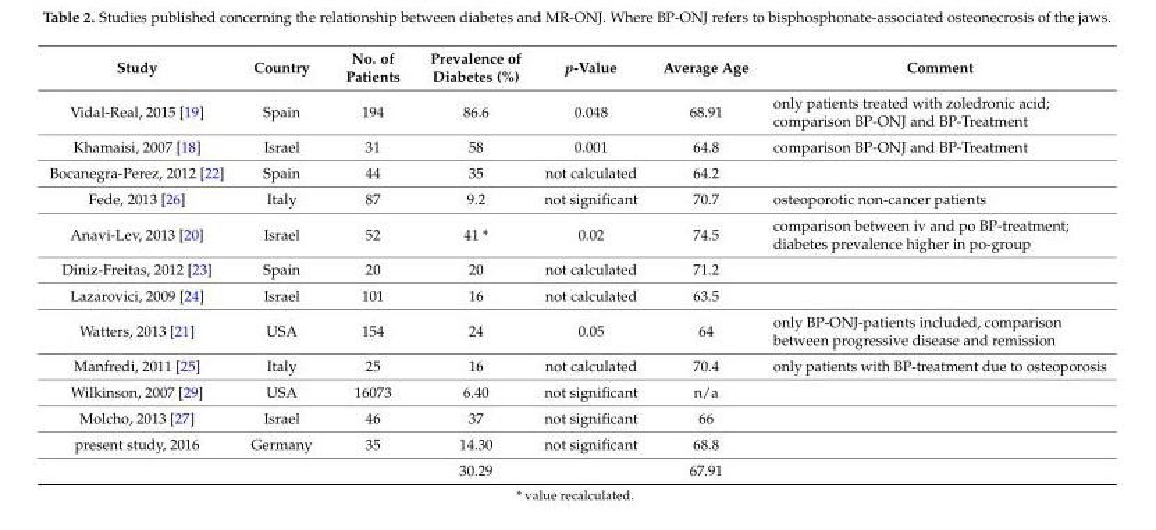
<table><thead><tr><td>Study</td><td>Country</td><td>No. of Patients</td><td>Prevalence of Diabetes (%)</td><td>p-Value</td><td>Average Age</td><td>Comment</td></tr></thead><tbody><tr><td>Vidal-Real, 2015 [19]</td><td>Spain</td><td>194</td><td>86.6</td><td>0.048</td><td>68.91</td><td>only patients treated with zoledronic acid; comparison BP-ONJ and BP-Treatment</td></tr><tr><td>Khamaisi, 2007 [18]</td><td>Israel</td><td>31</td><td>58</td><td>0.001</td><td>64.8</td><td>comparison BP-ONJ and BP-Treatment</td></tr><tr><td>Bocanegra-Perez, 2012 [22]</td><td>Spain</td><td>44</td><td>35</td><td>not calculated</td><td>64.2</td><td></td></tr><tr><td>Fede, 2013 [26]</td><td>Italy</td><td>87</td><td>9.2</td><td>not significant</td><td>70.7</td><td>osteoporotic non-cancer patients</td></tr><tr><td>Anavi-Lev, 2013 [20]</td><td>Israel</td><td>52</td><td>41 *</td><td>0.02</td><td>74.5</td><td>comparison between iv and po BP-treatment; diabetes prevalence higher in po-group</td></tr><tr><td>Diniz-Freitas, 2012 [23]</td><td>Spain</td><td>20</td><td>20</td><td>not calculated</td><td>71.2</td><td></td></tr><tr><td>Lazarovici, 2009 [24]</td><td>Israel</td><td>101</td><td>16</td><td>not calculated</td><td>63.5</td><td></td></tr><tr><td>Watters, 2013 [21]</td><td>USA</td><td>154</td><td>24</td><td>0.05</td><td>64</td><td>only BP-ONJ-patients included, comparison between progressive disease and remission</td></tr><tr><td>Manfredi, 2011 [25]</td><td>Italy</td><td>25</td><td>16</td><td>not calculated</td><td>70.4</td><td>only patients with BP-treatment due to osteoporosis</td></tr><tr><td>Wilkinson, 2007 [29]</td><td>USA</td><td>16073</td><td>6.40</td><td>not significant</td><td>n/a</td><td></td></tr><tr><td>Molcho, 2013 [27]</td><td>Israel</td><td>46</td><td>37</td><td>not significant</td><td>66</td><td></td></tr><tr><td rowspan="2">present study, 2016</td><td>Germany</td><td>35</td><td>14.30</td><td>not significant</td><td>68.8</td><td></td></tr><tr><td></td><td></td><td>30.29</td><td></td><td>67.91</td><td></td></tr></tbody></table>